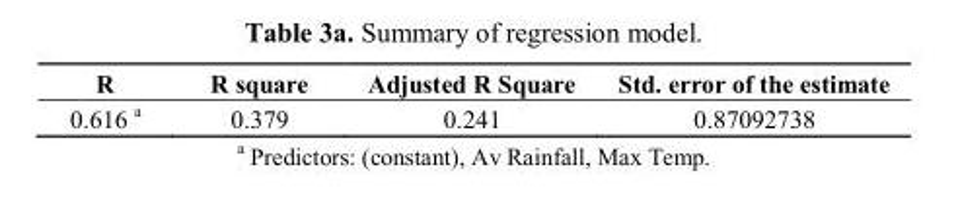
<table><thead><tr><td>R</td><td>R square</td><td>Adjusted R Square</td><td>Std. error of the estimate</td></tr></thead><tbody><tr><td>0.616 <sup>a</sup></td><td>0.379</td><td>0.241</td><td>0.87092738</td></tr></tbody></table>